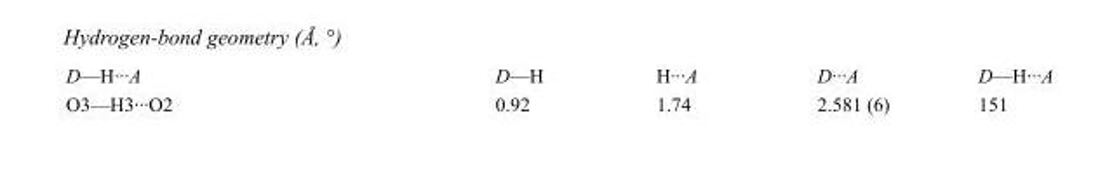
<table><tbody><tr><td>D—H···A</td><td>D—H</td><td>H···A</td><td>D···A</td><td>D—H···A</td></tr><tr><td>O3—H3···O2</td><td>0.92</td><td>1.74</td><td>2.581 (6)</td><td>151</td></tr></tbody></table>